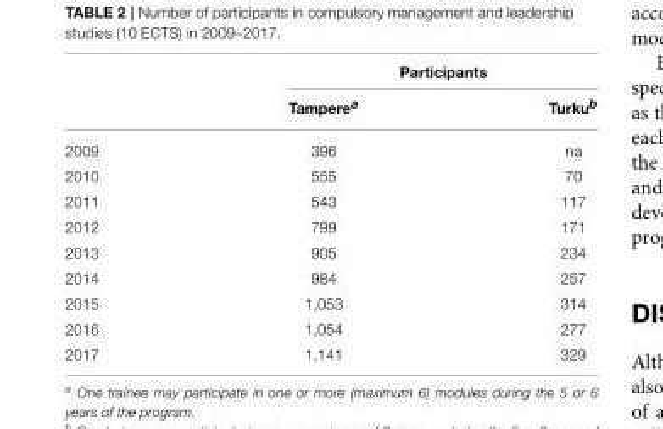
<table><thead><tr><td rowspan="2"></td><td colspan="2">Participants</td></tr><tr><td>Tampere<sup>a</sup></td><td>Turku<sup>b</sup></td></tr></thead><tbody><tr><td>2009</td><td>396</td><td>na</td></tr><tr><td>2010</td><td>555</td><td>70</td></tr><tr><td>2011</td><td>543</td><td>117</td></tr><tr><td>2012</td><td>799</td><td>171</td></tr><tr><td>2013</td><td>905</td><td>234</td></tr><tr><td>2014</td><td>984</td><td>257</td></tr><tr><td>2015</td><td>1,053</td><td>314</td></tr><tr><td>2016</td><td>1,054</td><td>277</td></tr><tr><td>2017</td><td>1,141</td><td>329</td></tr></tbody></table>